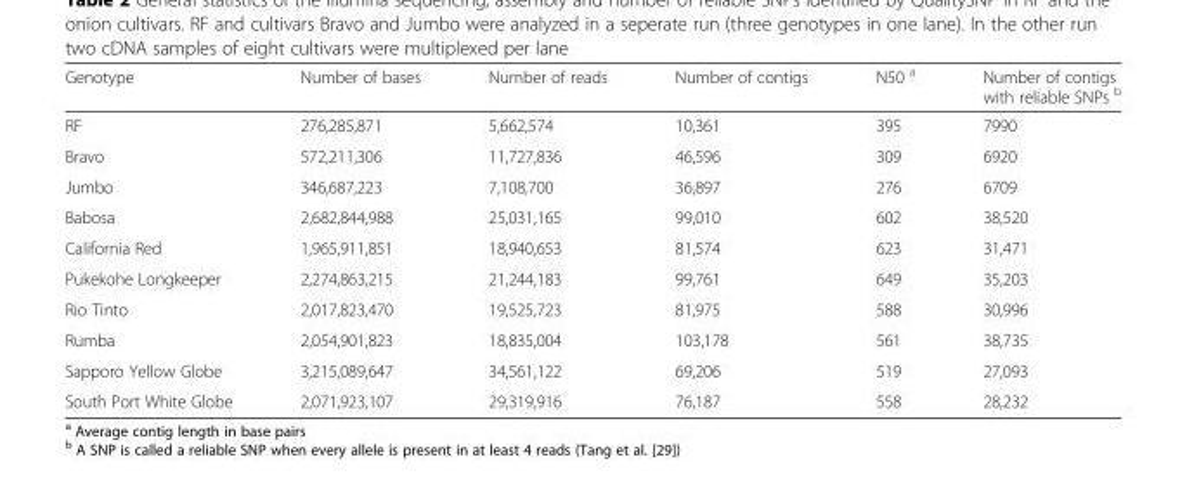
<table><thead><tr><td>Genotype</td><td>Number of bases</td><td>Number of reads</td><td>Number of contigs</td><td>N50 <sup>a</sup></td><td>Number of contigs with reliable SNPs <sup>b</sup></td></tr></thead><tbody><tr><td>RF</td><td>276,285,871</td><td>5,662,574</td><td>10,361</td><td>395</td><td>7990</td></tr><tr><td>Bravo</td><td>572,211,306</td><td>11,727,836</td><td>46,596</td><td>309</td><td>6920</td></tr><tr><td>Jumbo</td><td>346,687,223</td><td>7,108,700</td><td>36,897</td><td>276</td><td>6709</td></tr><tr><td>Babosa</td><td>2,682,844,988</td><td>25,031,165</td><td>99,010</td><td>602</td><td>38,520</td></tr><tr><td>California Red</td><td>1,965,911,851</td><td>18,940,653</td><td>81,574</td><td>623</td><td>31,471</td></tr><tr><td>Pukekohe Longkeeper</td><td>2,274,863,215</td><td>21,244,183</td><td>99,761</td><td>649</td><td>35,203</td></tr><tr><td>Rio Tinto</td><td>2,017,823,470</td><td>19,525,723</td><td>81,975</td><td>588</td><td>30,996</td></tr><tr><td>Rumba</td><td>2,054,901,823</td><td>18,835,004</td><td>103,178</td><td>561</td><td>38,735</td></tr><tr><td>Sapporo Yellow Globe</td><td>3,215,089,647</td><td>34,561,122</td><td>69,206</td><td>519</td><td>27,093</td></tr><tr><td>South Port White Globe</td><td>2,071,923,107</td><td>29,319,916</td><td>76,187</td><td>558</td><td>28,232</td></tr></tbody></table>